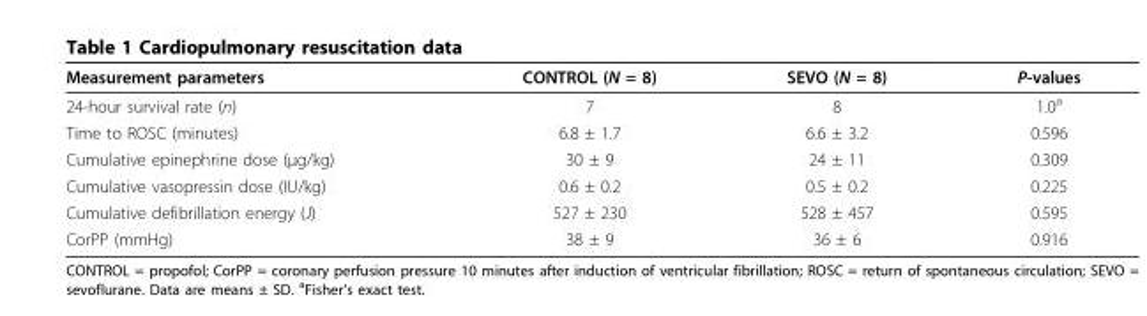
<table><thead><tr><td>Measurement parameters</td><td>CONTROL (N = 8)</td><td>SEVO (N = 8)</td><td>P-values</td></tr></thead><tbody><tr><td>24-hour survival rate (n)</td><td>7</td><td>8</td><td>1.0<sup>a</sup></td></tr><tr><td>Time to ROSC (minutes)</td><td>6.8 ± 1.7</td><td>6.6 ± 3.2</td><td>0.596</td></tr><tr><td>Cumulative epinephrine dose (μg/kg)</td><td>30 ± 9</td><td>24 ± 11</td><td>0.309</td></tr><tr><td>Cumulative vasopressin dose (IU/kg)</td><td>0.6 ± 0.2</td><td>0.5 ± 0.2</td><td>0.225</td></tr><tr><td>Cumulative defibrillation energy (J)</td><td>527 ± 230</td><td>528 ± 457</td><td>0.595</td></tr><tr><td>CorPP (mmHg)</td><td>38 ± 9</td><td>36 ± 6</td><td>0.916</td></tr></tbody></table>